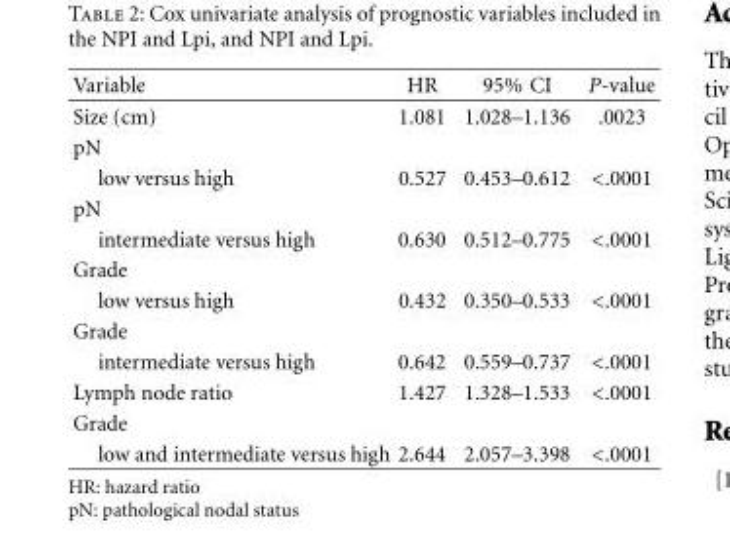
<table><thead><tr><td>Variable</td><td>HR</td><td>95% CI</td><td>P-value</td></tr></thead><tbody><tr><td>Size (cm)</td><td>1.081</td><td>1.028–1.136</td><td>.0023</td></tr><tr><td colspan="4">pN</td></tr><tr><td>low versus high</td><td>0.527</td><td>0.453–0.612</td><td>&lt;.0001</td></tr><tr><td colspan="4">pN</td></tr><tr><td>intermediate versus high</td><td>0.630</td><td>0.512–0.775</td><td>&lt;.0001</td></tr><tr><td colspan="4">Grade</td></tr><tr><td>low versus high</td><td>0.432</td><td>0.350–0.533</td><td>&lt;.0001</td></tr><tr><td colspan="4">Grade</td></tr><tr><td>intermediate versus high</td><td>0.642</td><td>0.559–0.737</td><td>&lt;.0001</td></tr><tr><td>Lymph node ratio</td><td>1.427</td><td>1.328–1.533</td><td>&lt;.0001</td></tr><tr><td colspan="4">Grade</td></tr><tr><td>low and intermediate versus high</td><td>2.644</td><td>2.057–3.398</td><td>&lt;.0001</td></tr></tbody></table>